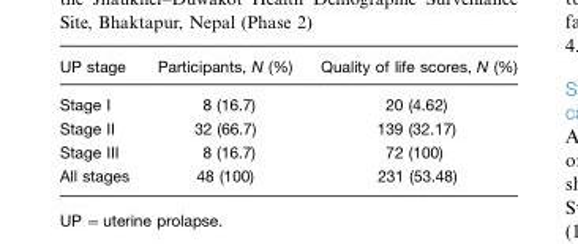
<table><thead><tr><td>UP stage</td><td>Participants, N (%)</td><td>Quality of life scores, N (%)</td></tr></thead><tbody><tr><td>Stage I</td><td>8 (16.7)</td><td>20 (4.62)</td></tr><tr><td>Stage II</td><td>32 (66.7)</td><td>139 (32.17)</td></tr><tr><td>Stage III</td><td>8 (16.7)</td><td>72 (100)</td></tr><tr><td>All stages</td><td>48 (100)</td><td>231 (53.48)</td></tr></tbody></table>